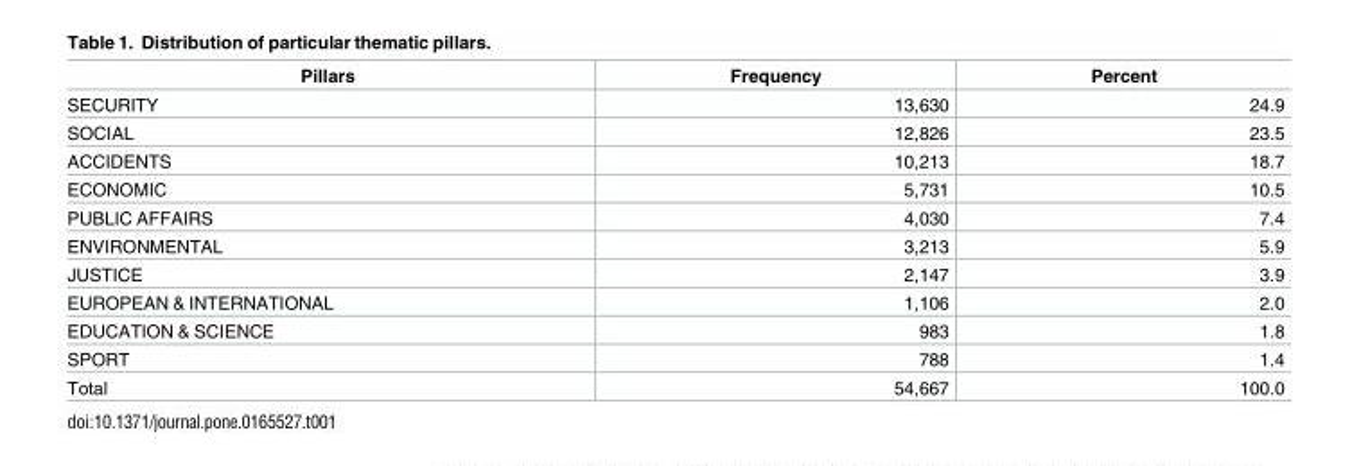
<table><thead><tr><td>Pillars</td><td>Frequency</td><td>Percent</td></tr></thead><tbody><tr><td>SECURITY</td><td>13,630</td><td>24.9</td></tr><tr><td>SOCIAL</td><td>12,826</td><td>23.5</td></tr><tr><td>ACCIDENTS</td><td>10,213</td><td>18.7</td></tr><tr><td>ECONOMIC</td><td>5,731</td><td>10.5</td></tr><tr><td>PUBLIC AFFAIRS</td><td>4,030</td><td>7.4</td></tr><tr><td>ENVIRONMENTAL</td><td>3,213</td><td>5.9</td></tr><tr><td>JUSTICE</td><td>2,147</td><td>3.9</td></tr><tr><td>EUROPEAN &amp; INTERNATIONAL</td><td>1,106</td><td>2.0</td></tr><tr><td>EDUCATION &amp; SCIENCE</td><td>983</td><td>1.8</td></tr><tr><td>SPORT</td><td>788</td><td>1.4</td></tr><tr><td>Total</td><td>54,667</td><td>100.0</td></tr></tbody></table>